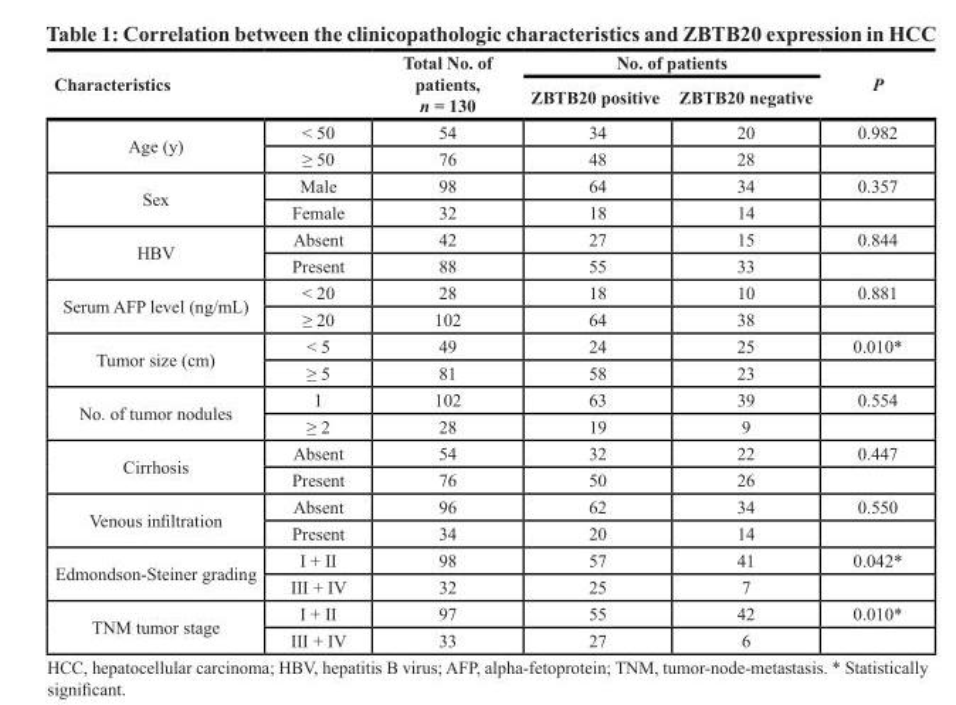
<table><thead><tr><td rowspan="2">Characteristics</td><td rowspan="2"></td><td rowspan="2">Total No. of patients, n = 130</td><td colspan="2">No. of patients</td><td rowspan="2">P</td></tr><tr><td>ZBTB20 positive</td><td>ZBTB20 negative</td></tr></thead><tbody><tr><td rowspan="2">Age (y)</td><td>&lt; 50</td><td>54</td><td>34</td><td>20</td><td>0.982</td></tr><tr><td>≥ 50</td><td>76</td><td>48</td><td>28</td><td></td></tr><tr><td rowspan="2">Sex</td><td>Male</td><td>98</td><td>64</td><td>34</td><td>0.357</td></tr><tr><td>Female</td><td>32</td><td>18</td><td>14</td><td></td></tr><tr><td rowspan="2">HBV</td><td>Absent</td><td>42</td><td>27</td><td>15</td><td>0.844</td></tr><tr><td>Present</td><td>88</td><td>55</td><td>33</td><td></td></tr><tr><td rowspan="2">Serum AFP level (ng/mL)</td><td>&lt; 20</td><td>28</td><td>18</td><td>10</td><td>0.881</td></tr><tr><td>≥ 20</td><td>102</td><td>64</td><td>38</td><td></td></tr><tr><td rowspan="2">Tumor size (cm)</td><td>&lt; 5</td><td>49</td><td>24</td><td>25</td><td>0.010*</td></tr><tr><td>≥ 5</td><td>81</td><td>58</td><td>23</td><td></td></tr><tr><td rowspan="2">No. of tumor nodules</td><td>1</td><td>102</td><td>63</td><td>39</td><td>0.554</td></tr><tr><td>≥ 2</td><td>28</td><td>19</td><td>9</td><td></td></tr><tr><td rowspan="2">Cirrhosis</td><td>Absent</td><td>54</td><td>32</td><td>22</td><td>0.447</td></tr><tr><td>Present</td><td>76</td><td>50</td><td>26</td><td></td></tr><tr><td rowspan="2">Venous infiltration</td><td>Absent</td><td>96</td><td>62</td><td>34</td><td>0.550</td></tr><tr><td>Present</td><td>34</td><td>20</td><td>14</td><td></td></tr><tr><td rowspan="2">Edmondson-Steiner grading</td><td>I + II</td><td>98</td><td>57</td><td>41</td><td>0.042*</td></tr><tr><td>III + IV</td><td>32</td><td>25</td><td>7</td><td></td></tr><tr><td rowspan="2">TNM tumor stage</td><td>I + II</td><td>97</td><td>55</td><td>42</td><td>0.010*</td></tr><tr><td>III + IV</td><td>33</td><td>27</td><td>6</td><td></td></tr></tbody></table>